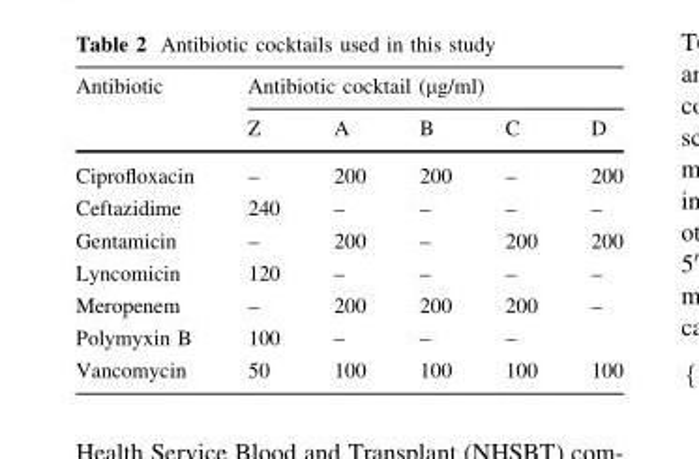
<table><thead><tr><td rowspan="2">Antibiotic</td><td colspan="5">Antibiotic cocktail (µg/ml)</td></tr><tr><td>Z</td><td>A</td><td>B</td><td>C</td><td>D</td></tr></thead><tbody><tr><td>Ciprofloxacin</td><td>–</td><td>200</td><td>200</td><td>–</td><td>200</td></tr><tr><td>Ceftazidime</td><td>240</td><td>–</td><td>–</td><td>–</td><td>–</td></tr><tr><td>Gentamicin</td><td>–</td><td>200</td><td>–</td><td>200</td><td>200</td></tr><tr><td>Lyncomicin</td><td>120</td><td>–</td><td>–</td><td>–</td><td>–</td></tr><tr><td>Meropenem</td><td>–</td><td>200</td><td>200</td><td>200</td><td>–</td></tr><tr><td>Polymyxin B</td><td>100</td><td>–</td><td>–</td><td>–</td><td></td></tr><tr><td>Vancomycin</td><td>50</td><td>100</td><td>100</td><td>100</td><td>100</td></tr></tbody></table>